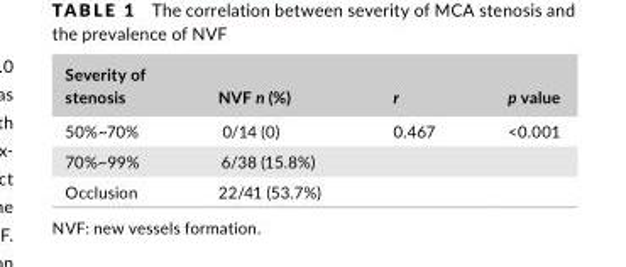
<table><thead><tr><td>Severity of stenosis</td><td>NVF n (%)</td><td>r</td><td>p value</td></tr></thead><tbody><tr><td>50%~70%</td><td>0/14 (0)</td><td>0.467</td><td>&lt;0.001</td></tr><tr><td>70%~99%</td><td>6/38 (15.8%)</td><td></td><td></td></tr><tr><td>Occlusion</td><td>22/41 (53.7%)</td><td></td><td></td></tr></tbody></table>